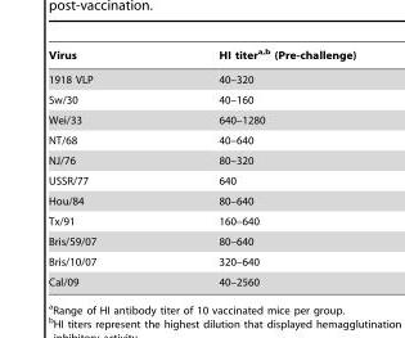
<table><thead><tr><td>Virus</td><td>HI titer<sup>a,</sup>b (Pre-challenge)</td></tr></thead><tbody><tr><td>1918 VLP</td><td>40–320</td></tr><tr><td>Sw/30</td><td>40–160</td></tr><tr><td>Wei/33</td><td>640–1280</td></tr><tr><td>NT/68</td><td>40–640</td></tr><tr><td>NJ/76</td><td>80–320</td></tr><tr><td>USSR/77</td><td>640</td></tr><tr><td>Hou/84</td><td>80–640</td></tr><tr><td>Tx/91</td><td>160–640</td></tr><tr><td>Bris/59/07</td><td>80–640</td></tr><tr><td>Bris/10/07</td><td>320–640</td></tr><tr><td>Cal/09</td><td>40–2560</td></tr></tbody></table>